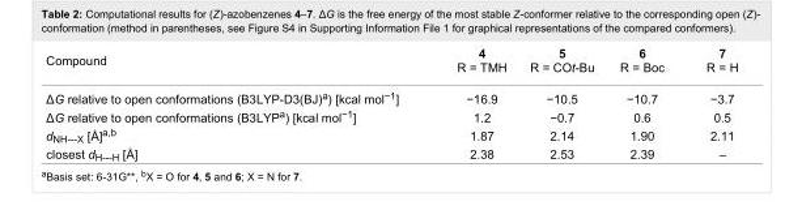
<table><tbody><tr><td>Compound</td><td>4 R = TMH</td><td>5 R = COt-Bu</td><td>6 R = Boc</td><td>7 R = H</td></tr><tr><td>ΔG relative to open conformations (B3LYP-D3(BJ)<sup>a</sup>) [kcal mol<sup>−1</sup>]</td><td>−16.9</td><td>−10.5</td><td>−10.7</td><td>−3.7</td></tr><tr><td>ΔG relative to open conformations (B3LYP<sup>a</sup>) [kcal mol<sup>−1</sup>]</td><td>1.2</td><td>−0.7</td><td>0.6</td><td>0.5</td></tr><tr><td>d<sub>NH---X</sub> [Å]<sup>a,b</sup></td><td>1.87</td><td>2.14</td><td>1.90</td><td>2.11</td></tr><tr><td>closest d<sub>H---H</sub> [Å]</td><td>2.38</td><td>2.53</td><td>2.39</td><td>–</td></tr></tbody></table>